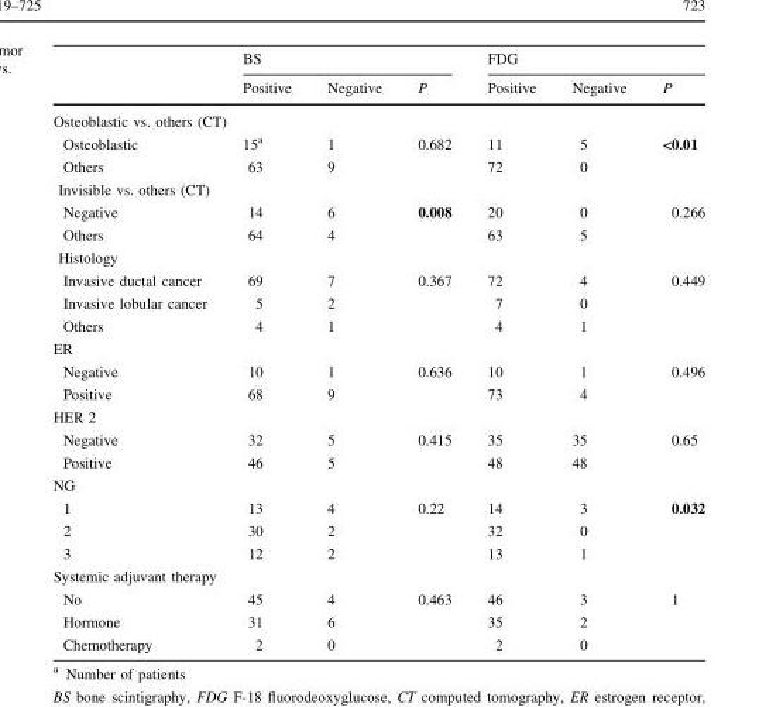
<table><thead><tr><td rowspan="2"></td><td colspan="3">BS</td><td colspan="3">FDG</td></tr><tr><td>Positive</td><td>Negative</td><td>P</td><td>Positive</td><td>Negative</td><td>P</td></tr></thead><tbody><tr><td colspan="7">Osteoblastic vs. others (CT)</td></tr><tr><td>Osteoblastic</td><td>15<sup>a</sup></td><td>1</td><td>0.682</td><td>11</td><td>5</td><td>&lt;0.01</td></tr><tr><td>Others</td><td>63</td><td>9</td><td></td><td>72</td><td>0</td><td></td></tr><tr><td colspan="7">Invisible vs. others (CT)</td></tr><tr><td>Negative</td><td>14</td><td>6</td><td>0.008</td><td>20</td><td>0</td><td>0.266</td></tr><tr><td>Others</td><td>64</td><td>4</td><td></td><td>63</td><td>5</td><td></td></tr><tr><td colspan="7">Histology</td></tr><tr><td>Invasive ductal cancer</td><td>69</td><td>7</td><td>0.367</td><td>72</td><td>4</td><td>0.449</td></tr><tr><td>Invasive lobular cancer</td><td>5</td><td>2</td><td></td><td>7</td><td>0</td><td></td></tr><tr><td>Others</td><td>4</td><td>1</td><td></td><td>4</td><td>1</td><td></td></tr><tr><td colspan="7">ER</td></tr><tr><td>Negative</td><td>10</td><td>1</td><td>0.636</td><td>10</td><td>1</td><td>0.496</td></tr><tr><td>Positive</td><td>68</td><td>9</td><td></td><td>73</td><td>4</td><td></td></tr><tr><td colspan="7">HER 2</td></tr><tr><td>Negative</td><td>32</td><td>5</td><td>0.415</td><td>35</td><td>35</td><td>0.65</td></tr><tr><td>Positive</td><td>46</td><td>5</td><td></td><td>48</td><td>48</td><td></td></tr><tr><td colspan="7">NG</td></tr><tr><td>1</td><td>13</td><td>4</td><td>0.22</td><td>14</td><td>3</td><td>0.032</td></tr><tr><td>2</td><td>30</td><td>2</td><td></td><td>32</td><td>0</td><td></td></tr><tr><td>3</td><td>12</td><td>2</td><td></td><td>13</td><td>1</td><td></td></tr><tr><td colspan="7">Systemic adjuvant therapy</td></tr><tr><td>No</td><td>45</td><td>4</td><td>0.463</td><td>46</td><td>3</td><td>1</td></tr><tr><td>Hormone</td><td>31</td><td>6</td><td></td><td>35</td><td>2</td><td></td></tr><tr><td>Chemotherapy</td><td>2</td><td>0</td><td></td><td>2</td><td>0</td><td></td></tr></tbody></table>